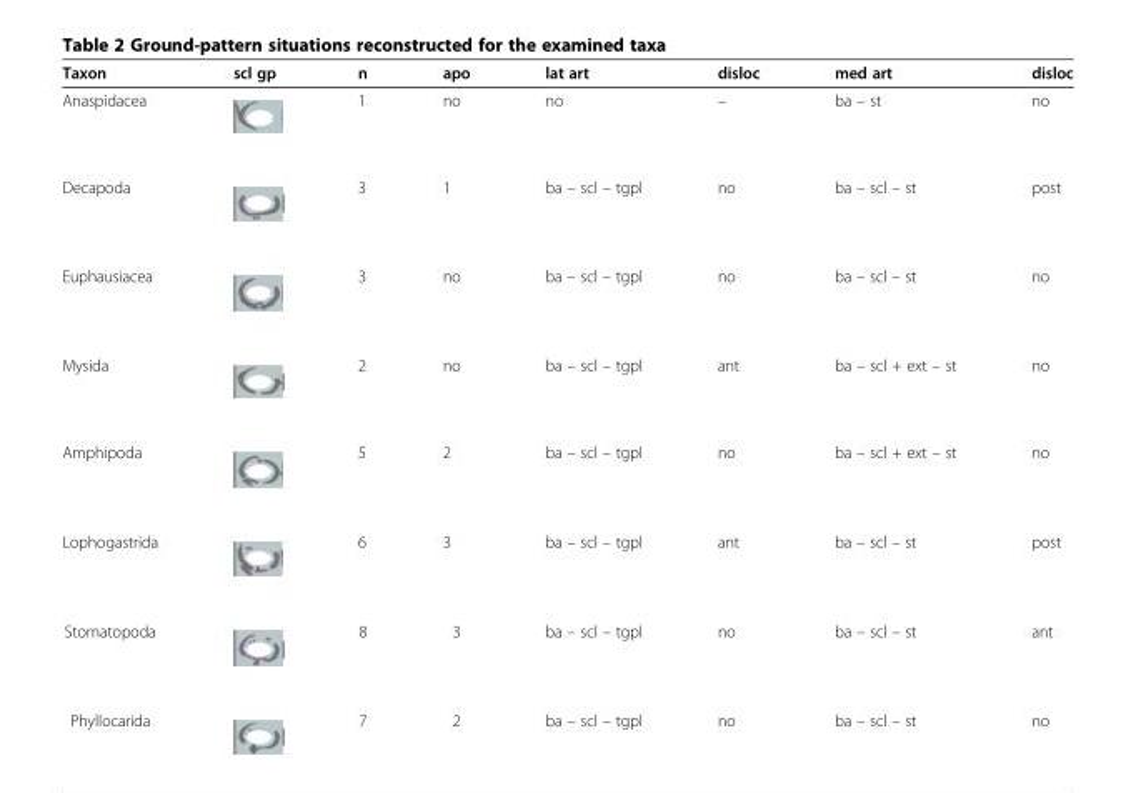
<table><thead><tr><td>Taxon</td><td>scl gp</td><td>n</td><td>apo</td><td>lat art</td><td>disloc</td><td>med art</td><td>disloc</td></tr></thead><tbody><tr><td>Anaspidacea</td><td></td><td>1</td><td>no</td><td>no</td><td>–</td><td>ba – st</td><td>no</td></tr><tr><td>Decapoda</td><td></td><td>3</td><td>1</td><td>ba – scl – tgpl</td><td>no</td><td>ba – scl – st</td><td>post</td></tr><tr><td>Euphausiacea</td><td></td><td>3</td><td>no</td><td>ba – scl – tgpl</td><td>no</td><td>ba – scl – st</td><td>no</td></tr><tr><td>Mysida</td><td></td><td>2</td><td>no</td><td>ba – scl – tgpl</td><td>ant</td><td>ba – scl + ext – st</td><td>no</td></tr><tr><td>Amphipoda</td><td></td><td>5</td><td>2</td><td>ba – scl – tgpl</td><td>no</td><td>ba – scl + ext – st</td><td>no</td></tr><tr><td>Lophogastrida</td><td></td><td>6</td><td>3</td><td>ba – scl – tgpl</td><td>ant</td><td>ba – scl – st</td><td>post</td></tr><tr><td>Stomatopoda</td><td></td><td>8</td><td>3</td><td>ba – scl – tgpl</td><td>no</td><td>ba – scl – st</td><td>ant</td></tr><tr><td>Phyllocarida</td><td></td><td>7</td><td>2</td><td>ba – scl – tgpl</td><td>no</td><td>ba – scl – st</td><td>no</td></tr></tbody></table>